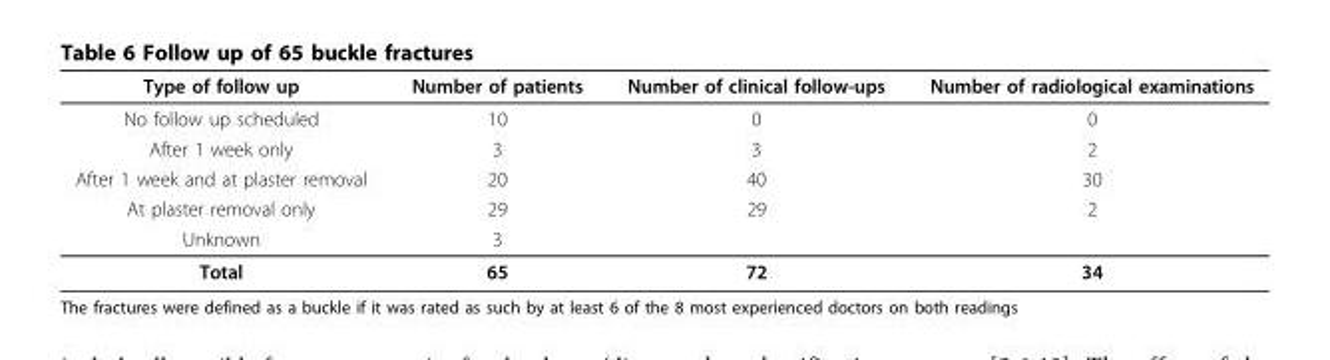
<table><thead><tr><td>Type of follow up</td><td>Number of patients</td><td>Number of clinical follow-ups</td><td>Number of radiological examinations</td></tr></thead><tbody><tr><td>No follow up scheduled</td><td>10</td><td>0</td><td>0</td></tr><tr><td>After 1 week only</td><td>3</td><td>3</td><td>2</td></tr><tr><td>After 1 week and at plaster removal</td><td>20</td><td>40</td><td>30</td></tr><tr><td>At plaster removal only</td><td>29</td><td>29</td><td>2</td></tr><tr><td>Unknown</td><td>3</td><td></td><td></td></tr><tr><td>Total</td><td>65</td><td>72</td><td>34</td></tr></tbody></table>